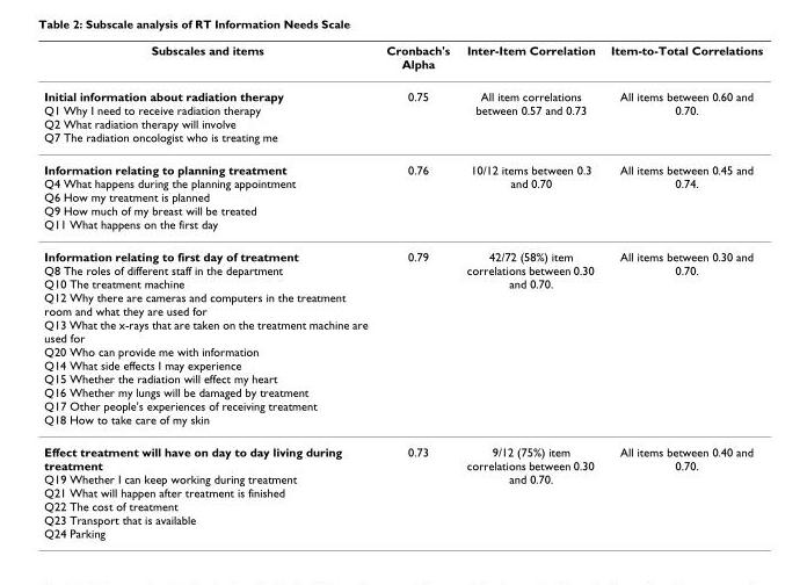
<table><thead><tr><td>Subscales and items</td><td>Cronbach&#x27;s Alpha</td><td>Inter-Item Correlation</td><td>Item-to-Total Correlations</td></tr></thead><tbody><tr><td>Initial information about radiation therapy Q1 Why I need to receive radiation therapy Q2 What radiation therapy will involve Q7 The radiation oncologist who is treating me</td><td>0.75</td><td>All item correlations between 0.57 and 0.73</td><td>All items between 0.60 and 0.70.</td></tr><tr><td>Information relating to planning treatment Q4 What happens during the planning appointment Q6 How my treatment is planned Q9 How much of my breast will be treated Q11 What happens on the first day</td><td>0.76</td><td>10/12 items between 0.3 and 0.70</td><td>All items between 0.45 and 0.74.</td></tr><tr><td>Information relating to first day of treatment Q8 The roles of different staff in the department Q10 The treatment machine Q12 Why there are cameras and computers in the treatment room and what they are used for Q13 What the x-rays that are taken on the treatment machine are used for Q20 Who can provide me with information Q14 What side effects I may experience Q15 Whether the radiation will effect my heart Q16 Whether my lungs will be damaged by treatment Q17 Other people&#x27;s experiences of receiving treatment Q18 How to take care of my skin</td><td>0.79</td><td>42/72 (58%) item correlations between 0.30 and 0.70.</td><td>All items between 0.30 and 0.70.</td></tr><tr><td>Effect treatment will have on day to day living during treatment Q19 Whether I can keep working during treatment Q21 What will happen after treatment is finished Q22 The cost of treatment Q23 Transport that is available Q24 Parking</td><td>0.73</td><td>9/12 (75%) item correlations between 0.30 and 0.70.</td><td>All items between 0.40 and 0.70.</td></tr></tbody></table>